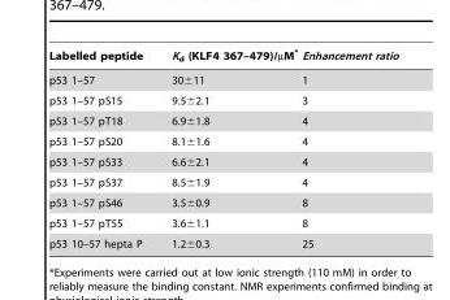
<table><thead><tr><td>Labelled peptide</td><td>K<sub>d</sub> (KLF4 367–479)/µM*</td><td>Enhancement ratio</td></tr></thead><tbody><tr><td>p53 1–57</td><td>30±11</td><td>1</td></tr><tr><td>p53 1–57 pS15</td><td>9.5±2.1</td><td>3</td></tr><tr><td>p53 1–57 pT18</td><td>6.9±1.8</td><td>4</td></tr><tr><td>p53 1–57 pS20</td><td>8.1±1.6</td><td>4</td></tr><tr><td>p53 1–57 pS33</td><td>6.6±2.1</td><td>4</td></tr><tr><td>p53 1–57 pS37</td><td>8.5±1.9</td><td>4</td></tr><tr><td>p53 1–57 pS46</td><td>3.5±0.9</td><td>8</td></tr><tr><td>p53 1–57 pT55</td><td>3.6±1.1</td><td>8</td></tr><tr><td>p53 10–57 hepta P</td><td>1.2±0.3</td><td>25</td></tr></tbody></table>